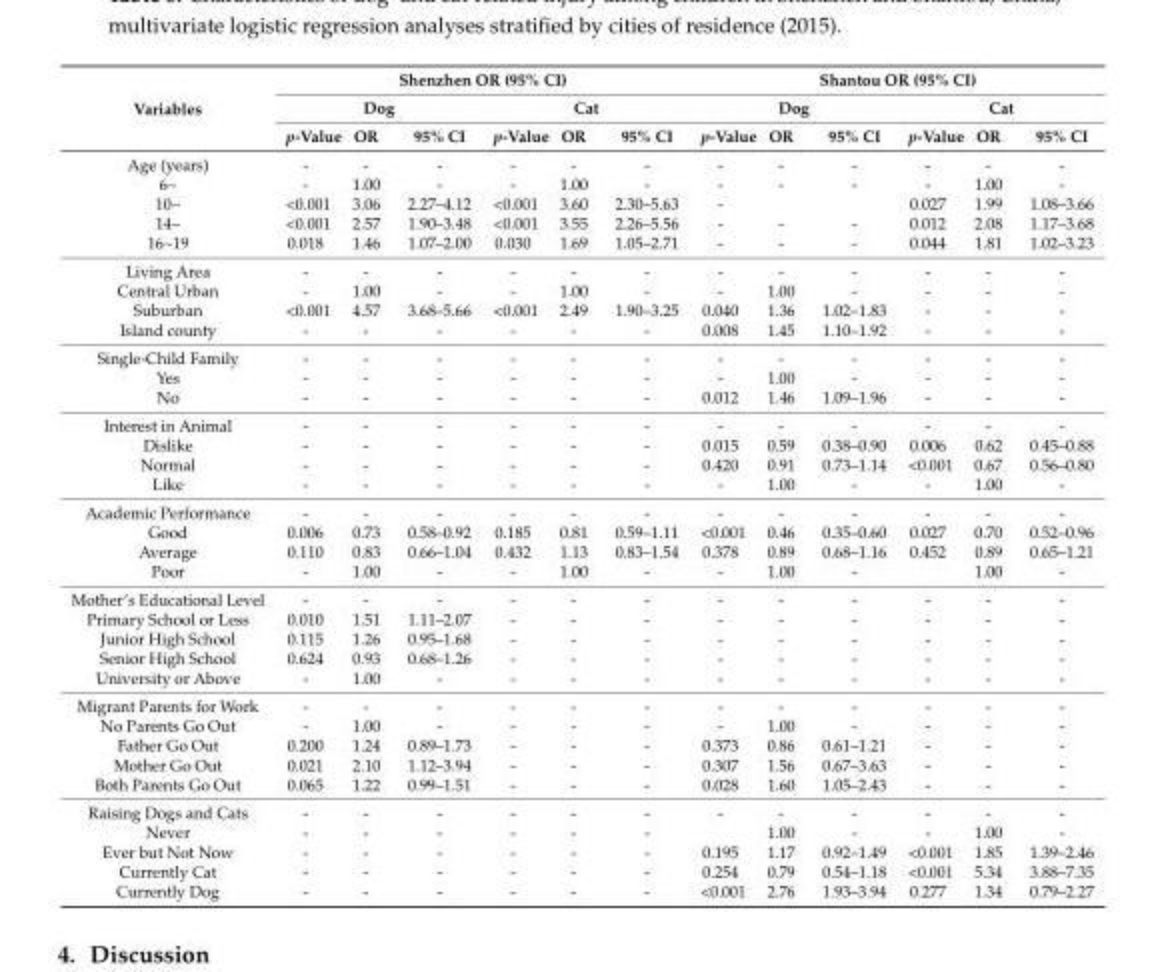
<table><thead><tr><td rowspan="3">Variables</td><td colspan="6">Shenzhen OR (95% CI)</td><td colspan="6">Shantou OR (95% CI)</td></tr><tr><td colspan="3">Dog</td><td colspan="3">Cat</td><td colspan="3">Dog</td><td colspan="3">Cat</td></tr><tr><td>p-Value</td><td>OR</td><td>95% CI</td><td>p-Value</td><td>OR</td><td>95% CI</td><td>p-Value</td><td>OR</td><td>95% CI</td><td>p-Value</td><td>OR</td><td>95% CI</td></tr></thead><tbody><tr><td>Age (years)</td><td>-</td><td>-</td><td>-</td><td>-</td><td>-</td><td>-</td><td>-</td><td>-</td><td>-</td><td>-</td><td>-</td><td>-</td></tr><tr><td>6~</td><td>-</td><td>1.00</td><td>-</td><td>-</td><td>1.00</td><td>-</td><td>-</td><td>-</td><td>-</td><td>-</td><td>1.00</td><td>-</td></tr><tr><td>10~</td><td>&lt;0.001</td><td>3.06</td><td>2.27–4.12</td><td>&lt;0.001</td><td>3.60</td><td>2.30–5.63</td><td>-</td><td></td><td></td><td>0.027</td><td>1.99</td><td>1.08–3.66</td></tr><tr><td>14~</td><td>&lt;0.001</td><td>2.57</td><td>1.90–3.48</td><td>&lt;0.001</td><td>3.55</td><td>2.26–5.56</td><td>-</td><td>-</td><td>-</td><td>0.012</td><td>2.08</td><td>1.17–3.68</td></tr><tr><td>16~19</td><td>0.018</td><td>1.46</td><td>1.07–2.00</td><td>0.030</td><td>1.69</td><td>1.05–2.71</td><td>-</td><td>-</td><td>-</td><td>0.044</td><td>1.81</td><td>1.02–3.23</td></tr><tr><td>Living Area</td><td>-</td><td>-</td><td>-</td><td>-</td><td>-</td><td>-</td><td>-</td><td>-</td><td>-</td><td>-</td><td>-</td><td>-</td></tr><tr><td>Central Urban</td><td>-</td><td>1.00</td><td>-</td><td>-</td><td>1.00</td><td>-</td><td>-</td><td>1.00</td><td>-</td><td>-</td><td>-</td><td>-</td></tr><tr><td>Suburban</td><td>&lt;0.001</td><td>4.57</td><td>3.68–5.66</td><td>&lt;0.001</td><td>2.49</td><td>1.90–3.25</td><td>0.040</td><td>1.36</td><td>1.02–1.83</td><td>-</td><td>-</td><td>-</td></tr><tr><td>Island county</td><td>-</td><td>-</td><td>-</td><td>-</td><td>-</td><td>-</td><td>0.008</td><td>1.45</td><td>1.10–1.92</td><td>-</td><td>-</td><td>-</td></tr><tr><td>Single-Child Family</td><td>-</td><td>-</td><td>-</td><td>-</td><td>-</td><td>-</td><td>-</td><td>-</td><td>-</td><td>-</td><td>-</td><td>-</td></tr><tr><td>Yes</td><td>-</td><td>-</td><td>-</td><td>-</td><td>-</td><td>-</td><td>-</td><td>1.00</td><td>-</td><td>-</td><td>-</td><td>-</td></tr><tr><td>No</td><td>-</td><td>-</td><td>-</td><td>-</td><td>-</td><td>-</td><td>0.012</td><td>1.46</td><td>1.09–1.96</td><td>-</td><td>-</td><td>-</td></tr><tr><td>Interest in Animal</td><td>-</td><td>-</td><td>-</td><td>-</td><td>-</td><td>-</td><td>-</td><td>-</td><td>-</td><td>-</td><td>-</td><td>-</td></tr><tr><td>Dislike</td><td>-</td><td>-</td><td>-</td><td>-</td><td>-</td><td>-</td><td>0.015</td><td>0.59</td><td>0.38–0.90</td><td>0.006</td><td>0.62</td><td>0.45–0.88</td></tr><tr><td>Normal</td><td>-</td><td>-</td><td>-</td><td>-</td><td>-</td><td>-</td><td>0.420</td><td>0.91</td><td>0.73–1.14</td><td>&lt;0.001</td><td>0.67</td><td>0.56–0.80</td></tr><tr><td>Like</td><td>-</td><td>-</td><td>-</td><td>-</td><td>-</td><td>-</td><td>-</td><td>1.00</td><td>-</td><td>-</td><td>1.00</td><td>-</td></tr><tr><td>Academic Performance</td><td>-</td><td>-</td><td>-</td><td>-</td><td>-</td><td>-</td><td>-</td><td>-</td><td>-</td><td>-</td><td>-</td><td>-</td></tr><tr><td>Good</td><td>0.006</td><td>0.73</td><td>0.58–0.92</td><td>0.185</td><td>0.81</td><td>0.59–1.11</td><td>&lt;0.001</td><td>0.46</td><td>0.35–0.60</td><td>0.027</td><td>0.70</td><td>0.52–0.96</td></tr><tr><td>Average</td><td>0.110</td><td>0.83</td><td>0.66–1.04</td><td>0.432</td><td>1.13</td><td>0.83–1.54</td><td>0.378</td><td>0.89</td><td>0.68–1.16</td><td>0.452</td><td>0.89</td><td>0.65–1.21</td></tr><tr><td>Poor</td><td>-</td><td>1.00</td><td>-</td><td>-</td><td>1.00</td><td>-</td><td>-</td><td>1.00</td><td>-</td><td></td><td>1.00</td><td>-</td></tr><tr><td>Mother’s Educational Level</td><td>-</td><td>-</td><td>-</td><td>-</td><td>-</td><td>-</td><td>-</td><td>-</td><td>-</td><td>-</td><td>-</td><td>-</td></tr><tr><td>Primary School or Less</td><td>0.010</td><td>1.51</td><td>1.11–2.07</td><td>-</td><td>-</td><td>-</td><td>-</td><td>-</td><td>-</td><td>-</td><td>-</td><td>-</td></tr><tr><td>Junior High School</td><td>0.115</td><td>1.26</td><td>0.95–1.68</td><td>-</td><td>-</td><td>-</td><td>-</td><td>-</td><td>-</td><td>-</td><td>-</td><td>-</td></tr><tr><td>Senior High School</td><td>0.624</td><td>0.93</td><td>0.68–1.26</td><td>-</td><td>-</td><td>-</td><td>-</td><td>-</td><td>-</td><td>-</td><td>-</td><td>-</td></tr><tr><td>University or Above</td><td>-</td><td>1.00</td><td>-</td><td>-</td><td>-</td><td>-</td><td>-</td><td>-</td><td>-</td><td>-</td><td>-</td><td>-</td></tr><tr><td>Migrant Parents for Work</td><td>-</td><td>-</td><td>-</td><td>-</td><td>-</td><td>-</td><td>-</td><td>-</td><td>-</td><td>-</td><td>-</td><td>-</td></tr><tr><td>No Parents Go Out</td><td>-</td><td>1.00</td><td>-</td><td>-</td><td>-</td><td>-</td><td>-</td><td>1.00</td><td>-</td><td>-</td><td>-</td><td>-</td></tr><tr><td>Father Go Out</td><td>0.200</td><td>1.24</td><td>0.89–1.73</td><td>-</td><td>-</td><td>-</td><td>0.373</td><td>0.86</td><td>0.61–1.21</td><td>-</td><td>-</td><td>-</td></tr><tr><td>Mother Go Out</td><td>0.021</td><td>2.10</td><td>1.12–3.94</td><td>-</td><td>-</td><td>-</td><td>0.307</td><td>1.56</td><td>0.67–3.63</td><td>-</td><td>-</td><td>-</td></tr><tr><td>Both Parents Go Out</td><td>0.065</td><td>1.22</td><td>0.99–1.51</td><td>-</td><td>-</td><td>-</td><td>0.028</td><td>1.60</td><td>1.05–2.43</td><td>-</td><td>-</td><td>-</td></tr><tr><td>Raising Dogs and Cats</td><td>-</td><td>-</td><td>-</td><td>-</td><td>-</td><td>-</td><td>-</td><td>-</td><td>-</td><td>-</td><td>-</td><td>-</td></tr><tr><td>Never</td><td>-</td><td>-</td><td>-</td><td>-</td><td>-</td><td>-</td><td></td><td>1.00</td><td>-</td><td>-</td><td>1.00</td><td>-</td></tr><tr><td>Ever but Not Now</td><td>-</td><td>-</td><td>-</td><td>-</td><td>-</td><td>-</td><td>0.195</td><td>1.17</td><td>0.92–1.49</td><td>&lt;0.001</td><td>1.85</td><td>1.39–2.46</td></tr><tr><td>Currently Cat</td><td>-</td><td>-</td><td>-</td><td>-</td><td>-</td><td>-</td><td>0.254</td><td>0.79</td><td>0.54–1.18</td><td>&lt;0.001</td><td>5.34</td><td>3.88–7.35</td></tr><tr><td>Currently Dog</td><td>-</td><td>-</td><td>-</td><td>-</td><td>-</td><td>-</td><td>&lt;0.001</td><td>2.76</td><td>1.93–3.94</td><td>0.277</td><td>1.34</td><td>0.79–2.27</td></tr></tbody></table>